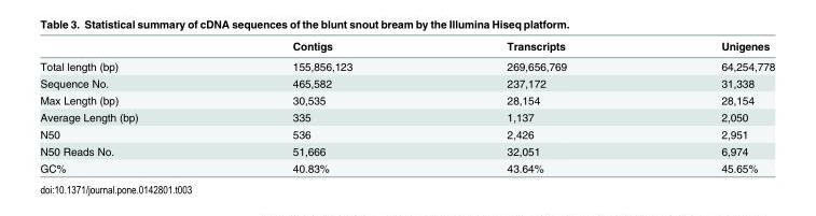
<table><thead><tr><td></td><td>Contigs</td><td>Transcripts</td><td>Unigenes</td></tr></thead><tbody><tr><td>Total length (bp)</td><td>155,856,123</td><td>269,656,769</td><td>64,254,778</td></tr><tr><td>Sequence No.</td><td>465,582</td><td>237,172</td><td>31,338</td></tr><tr><td>Max Length (bp)</td><td>30,535</td><td>28,154</td><td>28,154</td></tr><tr><td>Average Length (bp)</td><td>335</td><td>1,137</td><td>2,050</td></tr><tr><td>N50</td><td>536</td><td>2,426</td><td>2,951</td></tr><tr><td>N50 Reads No.</td><td>51,666</td><td>32,051</td><td>6,974</td></tr><tr><td>GC%</td><td>40.83%</td><td>43.64%</td><td>45.65%</td></tr></tbody></table>